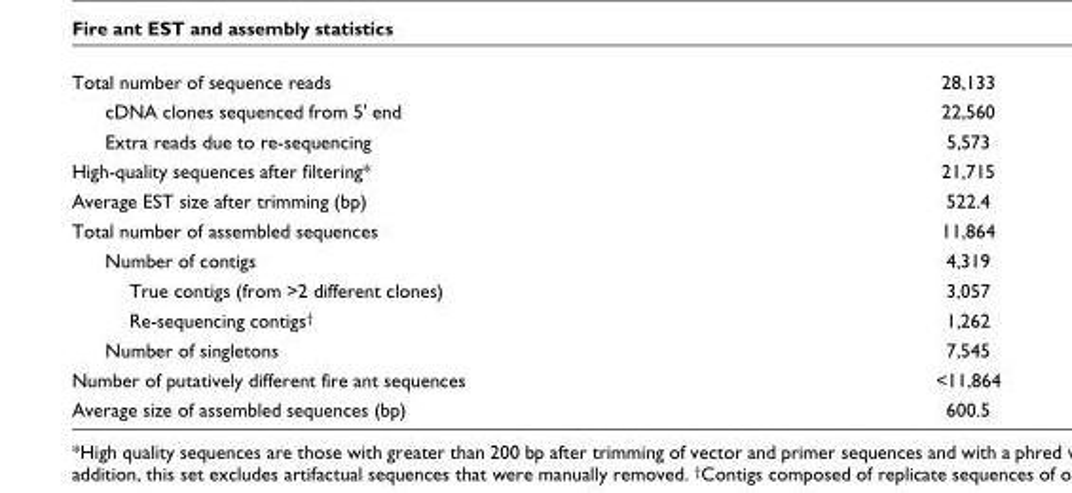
<table><tbody><tr><td>Total number of sequence reads</td><td>28,133</td></tr><tr><td>cDNA clones sequenced from 5&#x27; end</td><td>22,560</td></tr><tr><td>Extra reads due to re-sequencing</td><td>5,573</td></tr><tr><td>High-quality sequences after filtering*</td><td>21,715</td></tr><tr><td>Average EST size after trimming (bp)</td><td>522.4</td></tr><tr><td>Total number of assembled sequences</td><td>11,864</td></tr><tr><td>Number of contigs</td><td>4,319</td></tr><tr><td>True contigs (from &gt;2 different clones)</td><td>3,057</td></tr><tr><td>Re-sequencing contigs†</td><td>1,262</td></tr><tr><td>Number of singletons</td><td>7,545</td></tr><tr><td>Number of putatively different fire ant sequences</td><td>&lt;11,864</td></tr><tr><td>Average size of assembled sequences (bp)</td><td>600.5</td></tr></tbody></table>